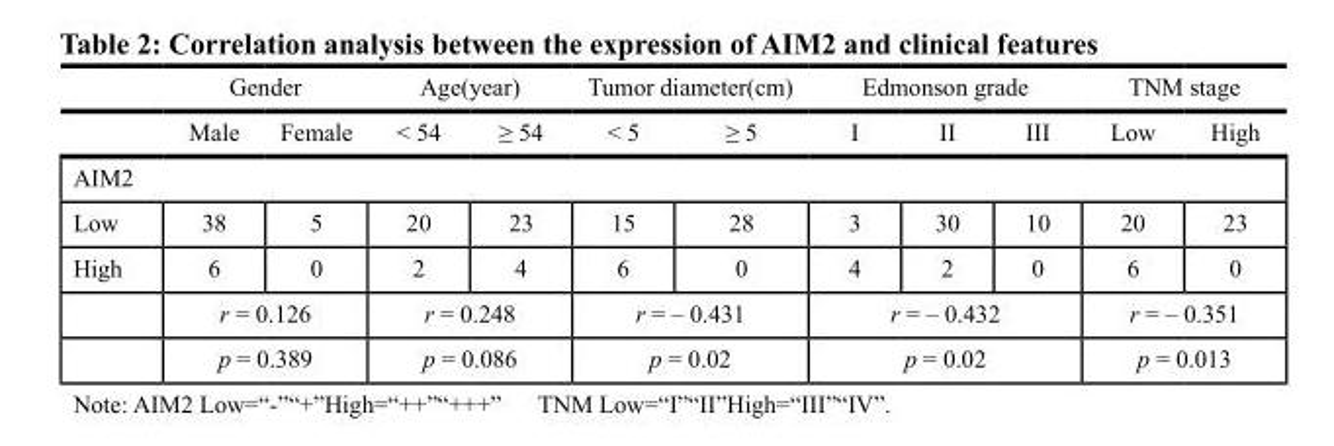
<table><thead><tr><td rowspan="2"></td><td colspan="2">Gender</td><td colspan="2">Age(year)</td><td colspan="2">Tumor diameter(cm)</td><td colspan="3">Edmonson grade</td><td colspan="2">TNM stage</td></tr><tr><td>Male</td><td>Female</td><td>&lt; 54</td><td>≥ 54</td><td>&lt; 5</td><td>≥ 5</td><td>I</td><td>II</td><td>III</td><td>Low</td><td>High</td></tr></thead><tbody><tr><td colspan="12">AIM2</td></tr><tr><td>Low</td><td>38</td><td>5</td><td>20</td><td>23</td><td>15</td><td>28</td><td>3</td><td>30</td><td>10</td><td>20</td><td>23</td></tr><tr><td rowspan="3">High</td><td>6</td><td>0</td><td>2</td><td>4</td><td>6</td><td>0</td><td>4</td><td>2</td><td>0</td><td>6</td><td>0</td></tr><tr><td colspan="2">r = 0.126</td><td colspan="2">r = 0.248</td><td colspan="2">r = – 0.431</td><td colspan="3">r = – 0.432</td><td colspan="2">r = – 0.351</td></tr><tr><td colspan="2">p = 0.389</td><td colspan="2">p = 0.086</td><td colspan="2">p = 0.02</td><td colspan="3">p = 0.02</td><td colspan="2">p = 0.013</td></tr></tbody></table>